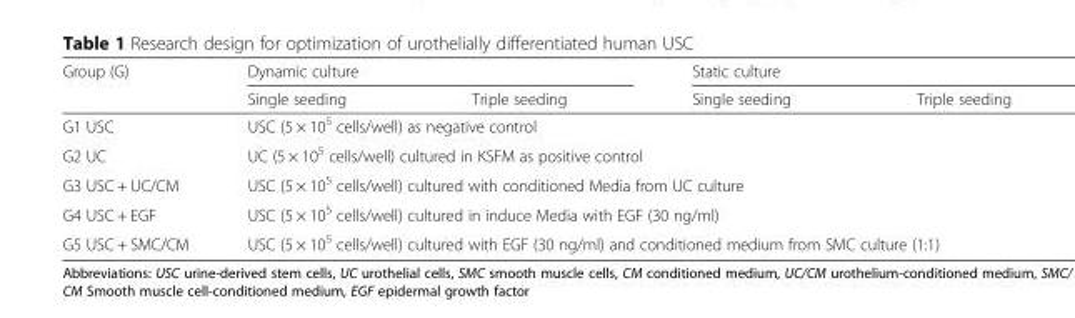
<table><thead><tr><td rowspan="2">Group (G)</td><td colspan="2">Dynamic culture</td><td colspan="2">Static culture</td></tr><tr><td>Single seeding</td><td>Triple seeding</td><td>Single seeding</td><td>Triple seeding</td></tr></thead><tbody><tr><td>G1 USC</td><td colspan="4">USC (5 × 10<sup>5</sup> cells/well) as negative control</td></tr><tr><td>G2 UC</td><td colspan="4">UC (5 × 10<sup>5</sup> cells/well) cultured in KSFM as positive control</td></tr><tr><td>G3 USC + UC/CM</td><td colspan="4">USC (5 × 10<sup>5</sup> cells/well) cultured with conditioned Media from UC culture</td></tr><tr><td>G4 USC + EGF</td><td colspan="4">USC (5 × 10<sup>5</sup> cells/well) cultured in induce Media with EGF (30 ng/ml)</td></tr><tr><td>G5 USC + SMC/CM</td><td colspan="4">USC (5 × 10<sup>5</sup> cells/well) cultured with EGF (30 ng/ml) and conditioned medium from SMC culture (1:1)</td></tr></tbody></table>